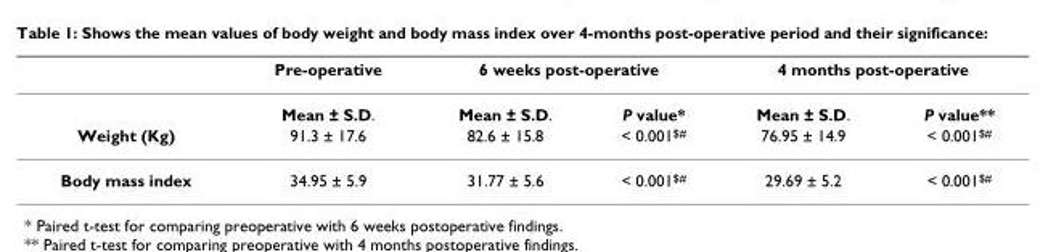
<table><thead><tr><td rowspan="2"></td><td rowspan="2">Pre-operative Mean ± S.D.</td><td colspan="2">6 weeks post-operative</td><td colspan="2">4 months post-operative</td></tr><tr><td>Mean ± S.D.</td><td>P value*</td><td>Mean ± S.D.</td><td>P value**</td></tr></thead><tbody><tr><td>Weight (Kg)</td><td>91.3 ± 17.6</td><td>82.6 ± 15.8</td><td>&lt; 0.001<sup>$#</sup></td><td>76.95 ± 14.9</td><td>&lt; 0.001<sup>$#</sup></td></tr><tr><td>Body mass index</td><td>34.95 ± 5.9</td><td>31.77 ± 5.6</td><td>&lt; 0.001<sup>$#</sup></td><td>29.69 ± 5.2</td><td>&lt; 0.001<sup>$#</sup></td></tr></tbody></table>